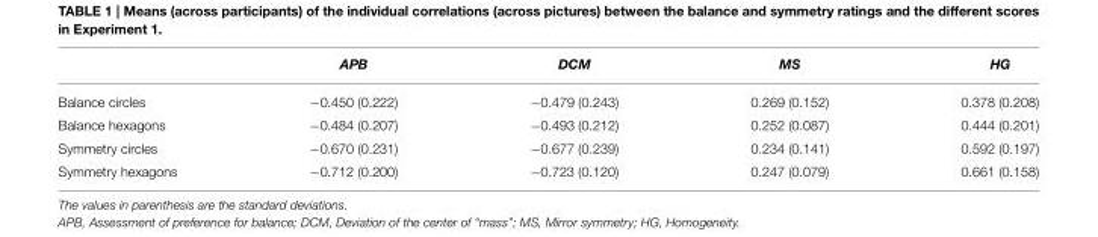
<table><thead><tr><td></td><td>APB</td><td>DCM</td><td>MS</td><td>HG</td></tr></thead><tbody><tr><td>Balance circles</td><td>−0.450 (0.222)</td><td>−0.479 (0.243)</td><td>0.269 (0.152)</td><td>0.378 (0.208)</td></tr><tr><td>Balance hexagons</td><td>−0.484 (0.207)</td><td>−0.493 (0.212)</td><td>0.252 (0.087)</td><td>0.444 (0.201)</td></tr><tr><td>Symmetry circles</td><td>−0.670 (0.231)</td><td>−0.677 (0.239)</td><td>0.234 (0.141)</td><td>0.592 (0.197)</td></tr><tr><td>Symmetry hexagons</td><td>−0.712 (0.200)</td><td>−0.723 (0.120)</td><td>0.247 (0.079)</td><td>0.661 (0.158)</td></tr></tbody></table>